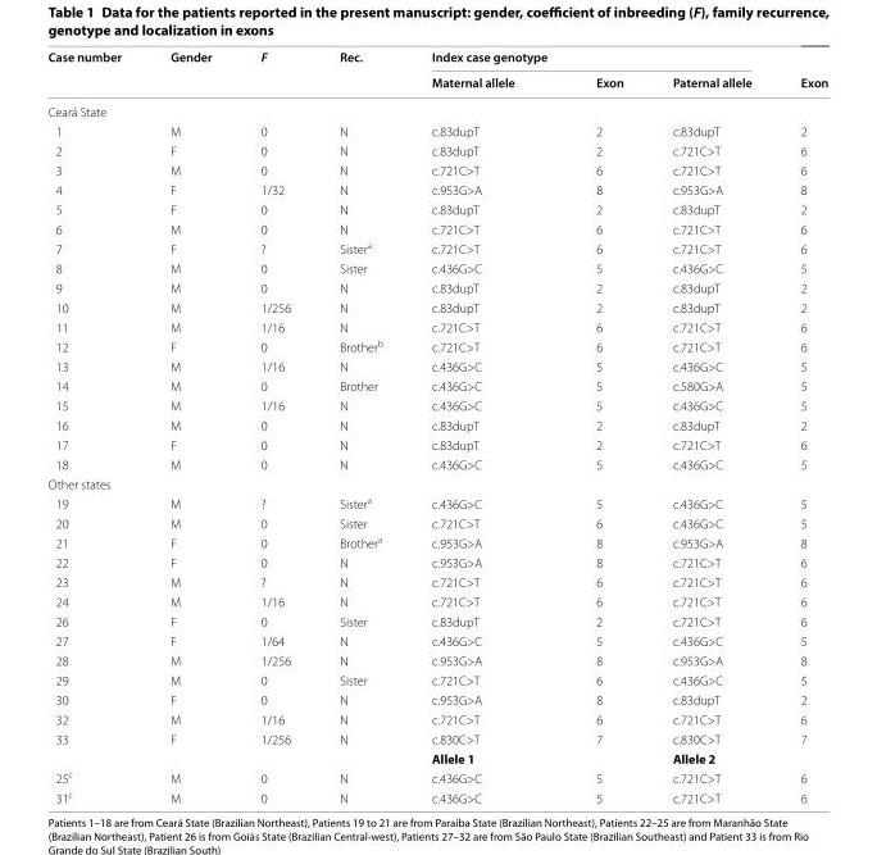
<table><thead><tr><td rowspan="2">Case number</td><td rowspan="2">Gender</td><td rowspan="2">F</td><td rowspan="2">Rec.</td><td colspan="3">Index case genotype</td><td rowspan="2">Exon</td></tr><tr><td>Maternal allele</td><td>Exon</td><td>Paternal allele</td></tr></thead><tbody><tr><td colspan="8">Ceará State</td></tr><tr><td>1</td><td>M</td><td>0</td><td>N</td><td>c.83dupT</td><td>2</td><td>c.83dupT</td><td>2</td></tr><tr><td>2</td><td>F</td><td>0</td><td>N</td><td>c.83dupT</td><td>2</td><td>c.721C&gt;T</td><td>6</td></tr><tr><td>3</td><td>M</td><td>0</td><td>N</td><td>c.721C&gt;T</td><td>6</td><td>c.721C&gt;T</td><td>6</td></tr><tr><td>4</td><td>F</td><td>1/32</td><td>N</td><td>c.953G&gt;A</td><td>8</td><td>c.953G&gt;A</td><td>8</td></tr><tr><td>5</td><td>F</td><td>0</td><td>N</td><td>c.83dupT</td><td>2</td><td>c.83dupT</td><td>2</td></tr><tr><td>6</td><td>M</td><td>0</td><td>N</td><td>c.721C&gt;T</td><td>6</td><td>c.721C&gt;T</td><td>6</td></tr><tr><td>7</td><td>F</td><td>?</td><td>Sister<sup>a</sup></td><td>c.721C&gt;T</td><td>6</td><td>c.721C&gt;T</td><td>6</td></tr><tr><td>8</td><td>M</td><td>0</td><td>Sister</td><td>c.436G&gt;C</td><td>5</td><td>c.436G&gt;C</td><td>5</td></tr><tr><td>9</td><td>M</td><td>0</td><td>N</td><td>c.83dupT</td><td>2</td><td>c.83dupT</td><td>2</td></tr><tr><td>10</td><td>M</td><td>1/256</td><td>N</td><td>c.83dupT</td><td>2</td><td>c.83dupT</td><td>2</td></tr><tr><td>11</td><td>M</td><td>1/16</td><td>N</td><td>c.721C&gt;T</td><td>6</td><td>c.721C&gt;T</td><td>6</td></tr><tr><td>12</td><td>F</td><td>0</td><td>Brother<sup>b</sup></td><td>c.721C&gt;T</td><td>6</td><td>c.721C&gt;T</td><td>6</td></tr><tr><td>13</td><td>M</td><td>1/16</td><td>N</td><td>c.436G&gt;C</td><td>5</td><td>c.436G&gt;C</td><td>5</td></tr><tr><td>14</td><td>M</td><td>0</td><td>Brother</td><td>c.436G&gt;C</td><td>5</td><td>c.580G&gt;A</td><td>5</td></tr><tr><td>15</td><td>M</td><td>1/16</td><td>N</td><td>c.436G&gt;C</td><td>5</td><td>c.436G&gt;C</td><td>5</td></tr><tr><td>16</td><td>M</td><td>0</td><td>N</td><td>c.83dupT</td><td>2</td><td>c.83dupT</td><td>2</td></tr><tr><td>17</td><td>F</td><td>0</td><td>N</td><td>c.83dupT</td><td>2</td><td>c.721C&gt;T</td><td>6</td></tr><tr><td>18</td><td>M</td><td>0</td><td>N</td><td>c.436G&gt;C</td><td>5</td><td>c.436G&gt;C</td><td>5</td></tr><tr><td colspan="8">Other states</td></tr><tr><td>19</td><td>M</td><td>?</td><td>Sister<sup>a</sup></td><td>c.436G&gt;C</td><td>5</td><td>c.436G&gt;C</td><td>5</td></tr><tr><td>20</td><td>M</td><td>0</td><td>Sister</td><td>c.721C&gt;T</td><td>6</td><td>c.436G&gt;C</td><td>5</td></tr><tr><td>21</td><td>F</td><td>0</td><td>Brother<sup>a</sup></td><td>c.953G&gt;A</td><td>8</td><td>c.953G&gt;A</td><td>8</td></tr><tr><td>22</td><td>F</td><td>0</td><td>N</td><td>c.953G&gt;A</td><td>8</td><td>c.721C&gt;T</td><td>6</td></tr><tr><td>23</td><td>M</td><td>?</td><td>N</td><td>c.721C&gt;T</td><td>6</td><td>c.721C&gt;T</td><td>6</td></tr><tr><td>24</td><td>M</td><td>1/16</td><td>N</td><td>c.721C&gt;T</td><td>6</td><td>c.721C&gt;T</td><td>6</td></tr><tr><td>26</td><td>F</td><td>0</td><td>Sister</td><td>c.83dupT</td><td>2</td><td>c.721C&gt;T</td><td>6</td></tr><tr><td>27</td><td>F</td><td>1/64</td><td>N</td><td>c.436G&gt;C</td><td>5</td><td>c.436G&gt;C</td><td>5</td></tr><tr><td>28</td><td>M</td><td>1/256</td><td>N</td><td>c.953G&gt;A</td><td>8</td><td>c.953G&gt;A</td><td>8</td></tr><tr><td>29</td><td>M</td><td>0</td><td>Sister</td><td>c.721C&gt;T</td><td>6</td><td>c.436G&gt;C</td><td>5</td></tr><tr><td>30</td><td>F</td><td>0</td><td>N</td><td>c.953G&gt;A</td><td>8</td><td>c.83dupT</td><td>2</td></tr><tr><td>32</td><td>M</td><td>1/16</td><td>N</td><td>c.721C&gt;T</td><td>6</td><td>c.721C&gt;T</td><td>6</td></tr><tr><td rowspan="2">33</td><td>F</td><td>1/256</td><td>N</td><td>c.830C&gt;T</td><td>7</td><td>c.830C&gt;T</td><td>7</td></tr><tr><td></td><td></td><td></td><td>Allele 1</td><td></td><td>Allele 2</td><td></td></tr><tr><td>25<sup>c</sup></td><td>M</td><td>0</td><td>N</td><td>c.436G&gt;C</td><td>5</td><td>c.721C&gt;T</td><td>6</td></tr><tr><td>31<sup>c</sup></td><td>M</td><td>0</td><td>N</td><td>c.436G&gt;C</td><td>5</td><td>c.721C&gt;T</td><td>6</td></tr></tbody></table>